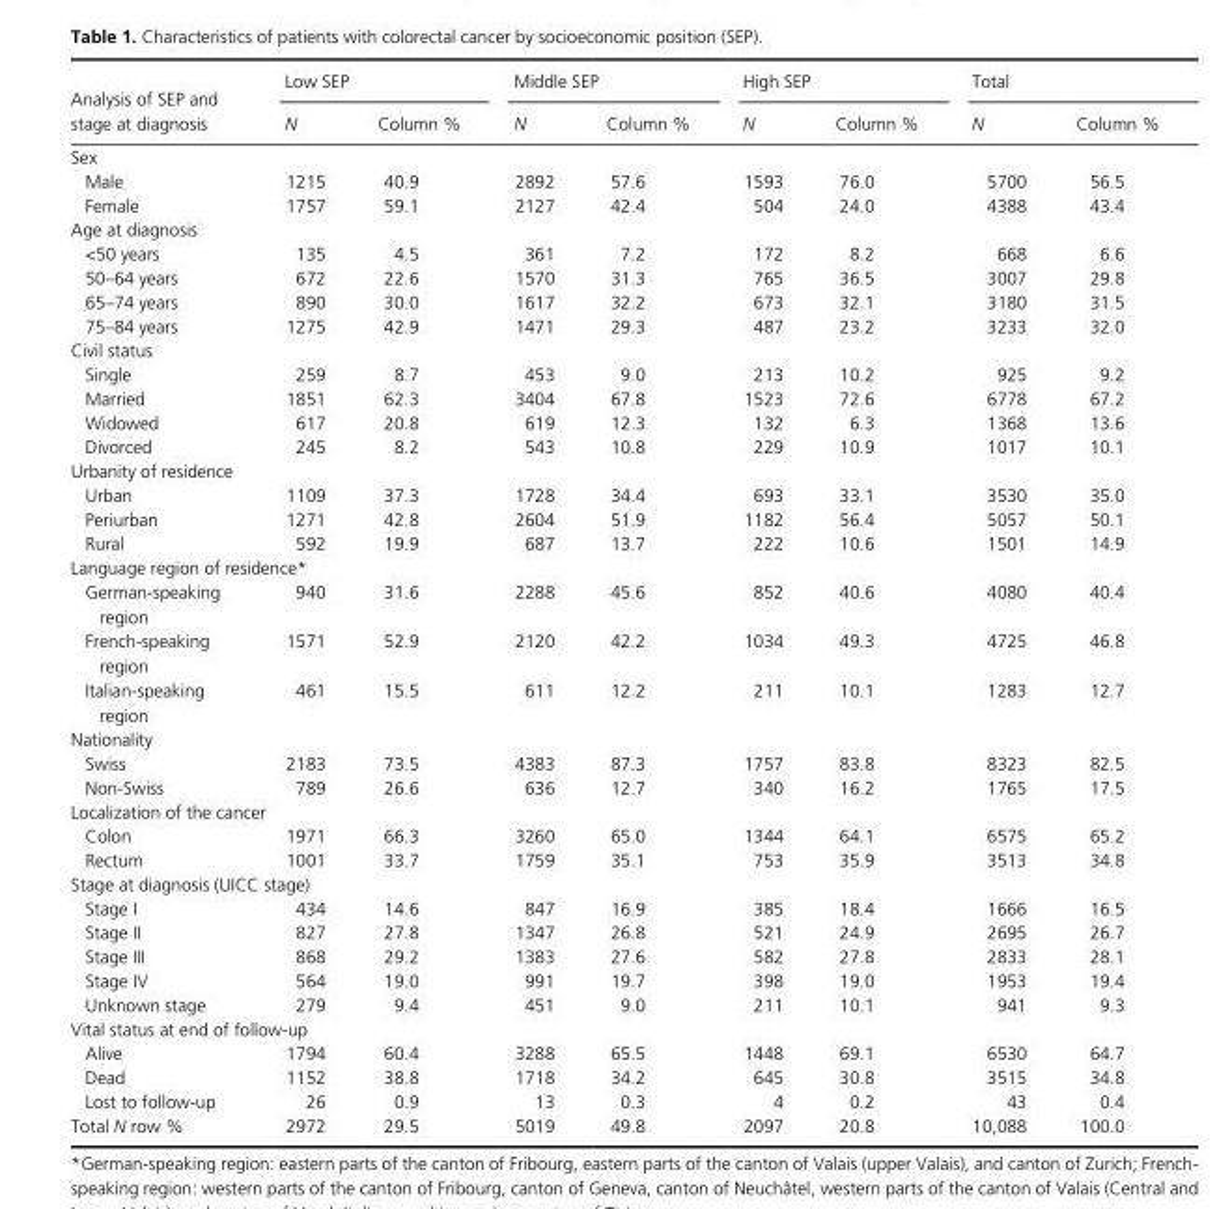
<table><thead><tr><td rowspan="2">Analysis of SEP and stage at diagnosis</td><td colspan="2">Low SEP</td><td colspan="2">Middle SEP</td><td colspan="2">High SEP</td><td colspan="2">Total</td></tr><tr><td>N</td><td>Column %</td><td>N</td><td>Column %</td><td>N</td><td>Column %</td><td>N</td><td>Column %</td></tr></thead><tbody><tr><td colspan="9">Sex</td></tr><tr><td>Male</td><td>1215</td><td>40.9</td><td>2892</td><td>57.6</td><td>1593</td><td>76.0</td><td>5700</td><td>56.5</td></tr><tr><td>Female</td><td>1757</td><td>59.1</td><td>2127</td><td>42.4</td><td>504</td><td>24.0</td><td>4388</td><td>43.4</td></tr><tr><td colspan="9">Age at diagnosis</td></tr><tr><td>&lt;50 years</td><td>135</td><td>4.5</td><td>361</td><td>7.2</td><td>172</td><td>8.2</td><td>668</td><td>6.6</td></tr><tr><td>50–64 years</td><td>672</td><td>22.6</td><td>1570</td><td>31.3</td><td>765</td><td>36.5</td><td>3007</td><td>29.8</td></tr><tr><td>65–74 years</td><td>890</td><td>30.0</td><td>1617</td><td>32.2</td><td>673</td><td>32.1</td><td>3180</td><td>31.5</td></tr><tr><td>75–84 years</td><td>1275</td><td>42.9</td><td>1471</td><td>29.3</td><td>487</td><td>23.2</td><td>3233</td><td>32.0</td></tr><tr><td colspan="9">Civil status</td></tr><tr><td>Single</td><td>259</td><td>8.7</td><td>453</td><td>9.0</td><td>213</td><td>10.2</td><td>925</td><td>9.2</td></tr><tr><td>Married</td><td>1851</td><td>62.3</td><td>3404</td><td>67.8</td><td>1523</td><td>72.6</td><td>6778</td><td>67.2</td></tr><tr><td>Widowed</td><td>617</td><td>20.8</td><td>619</td><td>12.3</td><td>132</td><td>6.3</td><td>1368</td><td>13.6</td></tr><tr><td>Divorced</td><td>245</td><td>8.2</td><td>543</td><td>10.8</td><td>229</td><td>10.9</td><td>1017</td><td>10.1</td></tr><tr><td colspan="9">Urbanity of residence</td></tr><tr><td>Urban</td><td>1109</td><td>37.3</td><td>1728</td><td>34.4</td><td>693</td><td>33.1</td><td>3530</td><td>35.0</td></tr><tr><td>Periurban</td><td>1271</td><td>42.8</td><td>2604</td><td>51.9</td><td>1182</td><td>56.4</td><td>5057</td><td>50.1</td></tr><tr><td>Rural</td><td>592</td><td>19.9</td><td>687</td><td>13.7</td><td>222</td><td>10.6</td><td>1501</td><td>14.9</td></tr><tr><td colspan="9">Language region of residence*</td></tr><tr><td>German- speaking region</td><td>940</td><td>31.6</td><td>2288</td><td>45.6</td><td>852</td><td>40.6</td><td>4080</td><td>40.4</td></tr><tr><td>French- speaking region</td><td>1571</td><td>52.9</td><td>2120</td><td>42.2</td><td>1034</td><td>49.3</td><td>4725</td><td>46.8</td></tr><tr><td>Italian- speaking region</td><td>461</td><td>15.5</td><td>611</td><td>12.2</td><td>211</td><td>10.1</td><td>1283</td><td>12.7</td></tr><tr><td colspan="9">Nationality</td></tr><tr><td>Swiss</td><td>2183</td><td>73.5</td><td>4383</td><td>87.3</td><td>1757</td><td>83.8</td><td>8323</td><td>82.5</td></tr><tr><td>Non- Swiss</td><td>789</td><td>26.6</td><td>636</td><td>12.7</td><td>340</td><td>16.2</td><td>1765</td><td>17.5</td></tr><tr><td colspan="9">Localization of the cancer</td></tr><tr><td>Colon</td><td>1971</td><td>66.3</td><td>3260</td><td>65.0</td><td>1344</td><td>64.1</td><td>6575</td><td>65.2</td></tr><tr><td>Rectum</td><td>1001</td><td>33.7</td><td>1759</td><td>35.1</td><td>753</td><td>35.9</td><td>3513</td><td>34.8</td></tr><tr><td colspan="9">Stage at diagnosis (UICC stage)</td></tr><tr><td>Stage I</td><td>434</td><td>14.6</td><td>847</td><td>16.9</td><td>385</td><td>18.4</td><td>1666</td><td>16.5</td></tr><tr><td>Stage II</td><td>827</td><td>27.8</td><td>1347</td><td>26.8</td><td>521</td><td>24.9</td><td>2695</td><td>26.7</td></tr><tr><td>Stage III</td><td>868</td><td>29.2</td><td>1383</td><td>27.6</td><td>582</td><td>27.8</td><td>2833</td><td>28.1</td></tr><tr><td>Stage IV</td><td>564</td><td>19.0</td><td>991</td><td>19.7</td><td>398</td><td>19.0</td><td>1953</td><td>19.4</td></tr><tr><td>Unknown stage</td><td>279</td><td>9.4</td><td>451</td><td>9.0</td><td>211</td><td>10.1</td><td>941</td><td>9.3</td></tr><tr><td colspan="9">Vital status at end of follow- up</td></tr><tr><td>Alive</td><td>1794</td><td>60.4</td><td>3288</td><td>65.5</td><td>1448</td><td>69.1</td><td>6530</td><td>64.7</td></tr><tr><td>Dead</td><td>1152</td><td>38.8</td><td>1718</td><td>34.2</td><td>645</td><td>30.8</td><td>3515</td><td>34.8</td></tr><tr><td>Lost to follow- up</td><td>26</td><td>0.9</td><td>13</td><td>0.3</td><td>4</td><td>0.2</td><td>43</td><td>0.4</td></tr><tr><td>Total N row %</td><td>2972</td><td>29.5</td><td>5019</td><td>49.8</td><td>2097</td><td>20.8</td><td>10,088</td><td>100.0</td></tr></tbody></table>